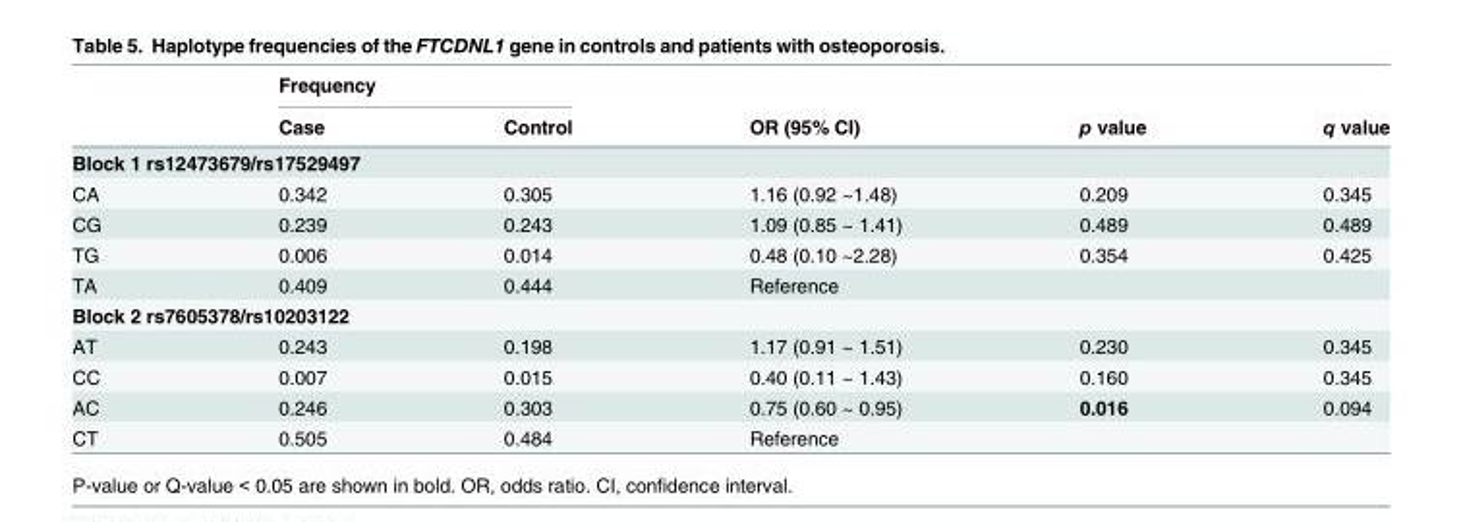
<table><thead><tr><td rowspan="2"></td><td colspan="2">Frequency</td><td rowspan="2">OR (95% CI)</td><td rowspan="2">p value</td><td rowspan="2">q value</td></tr><tr><td>Case</td><td>Control</td></tr></thead><tbody><tr><td colspan="6">Block 1 rs12473679/rs17529497</td></tr><tr><td>CA</td><td>0.342</td><td>0.305</td><td>1.16 (0.92 ~1.48)</td><td>0.209</td><td>0.345</td></tr><tr><td>CG</td><td>0.239</td><td>0.243</td><td>1.09 (0.85 ~ 1.41)</td><td>0.489</td><td>0.489</td></tr><tr><td>TG</td><td>0.006</td><td>0.014</td><td>0.48 (0.10 ~2.28)</td><td>0.354</td><td>0.425</td></tr><tr><td>TA</td><td>0.409</td><td>0.444</td><td>Reference</td><td></td><td></td></tr><tr><td colspan="6">Block 2 rs7605378/rs10203122</td></tr><tr><td>AT</td><td>0.243</td><td>0.198</td><td>1.17 (0.91 ~ 1.51)</td><td>0.230</td><td>0.345</td></tr><tr><td>CC</td><td>0.007</td><td>0.015</td><td>0.40 (0.11 ~ 1.43)</td><td>0.160</td><td>0.345</td></tr><tr><td>AC</td><td>0.246</td><td>0.303</td><td>0.75 (0.60 ~ 0.95)</td><td>0.016</td><td>0.094</td></tr><tr><td>CT</td><td>0.505</td><td>0.484</td><td>Reference</td><td></td><td></td></tr></tbody></table>